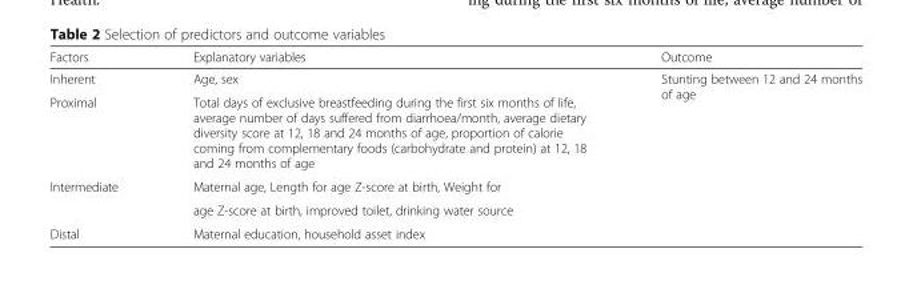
<table><thead><tr><td>Factors</td><td>Explanatory variables</td><td>Outcome</td></tr></thead><tbody><tr><td>Inherent</td><td>Age, sex</td><td rowspan="3">Stunting between 12 and 24 months of age</td></tr><tr><td>Proximal</td><td>Total days of exclusive breastfeeding during the first six months of life, average number of days suffered from diarrhoea/month, average dietary diversity score at 12, 18 and 24 months of age, proportion of calorie coming from complementary foods (carbohydrate and protein) at 12, 18 and 24 months of age</td></tr><tr><td rowspan="2">Intermediate</td><td>Maternal age, Length for age Z-score at birth, Weight for</td></tr><tr><td>age Z-score at birth, improved toilet, drinking water source</td><td rowspan="2"></td></tr><tr><td>Distal</td><td>Maternal education, household asset index</td></tr></tbody></table>